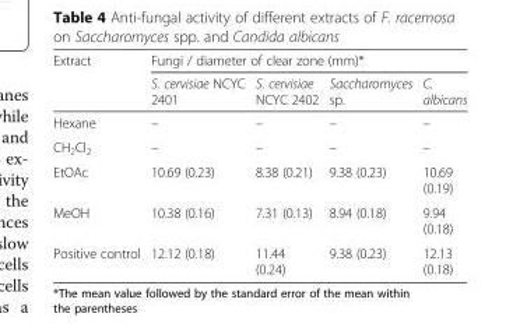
<table><thead><tr><td rowspan="2">Extract</td><td colspan="4">Fungi / diameter of clear zone (mm)*</td></tr><tr><td>S. cervisiae NCYC 2401</td><td>S. cervisiae NCYC 2402</td><td>Saccharomyces sp.</td><td>C. albicans</td></tr></thead><tbody><tr><td>Hexane</td><td>–</td><td>–</td><td>–</td><td>–</td></tr><tr><td>CH<sub>2</sub>Cl<sub>2</sub></td><td>–</td><td>–</td><td>–</td><td>–</td></tr><tr><td>EtOAc</td><td>10.69 (0.23)</td><td>8.38 (0.21)</td><td>9.38 (0.23)</td><td>10.69 (0.19)</td></tr><tr><td>MeOH</td><td>10.38 (0.16)</td><td>7.31 (0.13)</td><td>8.94 (0.18)</td><td>9.94 (0.18)</td></tr><tr><td>Positive control</td><td>12.12 (0.18)</td><td>11.44 (0.24)</td><td>9.38 (0.23)</td><td>12.13 (0.18)</td></tr></tbody></table>